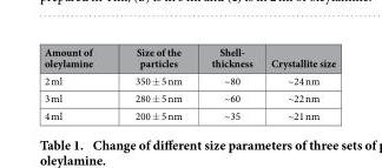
<table><thead><tr><td>Amount of oleylamine</td><td>Size of the particles</td><td>Shell- thickness</td><td>Crystallite size</td></tr></thead><tbody><tr><td>2 ml</td><td>350 ± 5 nm</td><td>~80</td><td>~24 nm</td></tr><tr><td>3 ml</td><td>280 ± 5 nm</td><td>~60</td><td>~22 nm</td></tr><tr><td>4 ml</td><td>200 ± 5 nm</td><td>~35</td><td>~21 nm</td></tr></tbody></table>